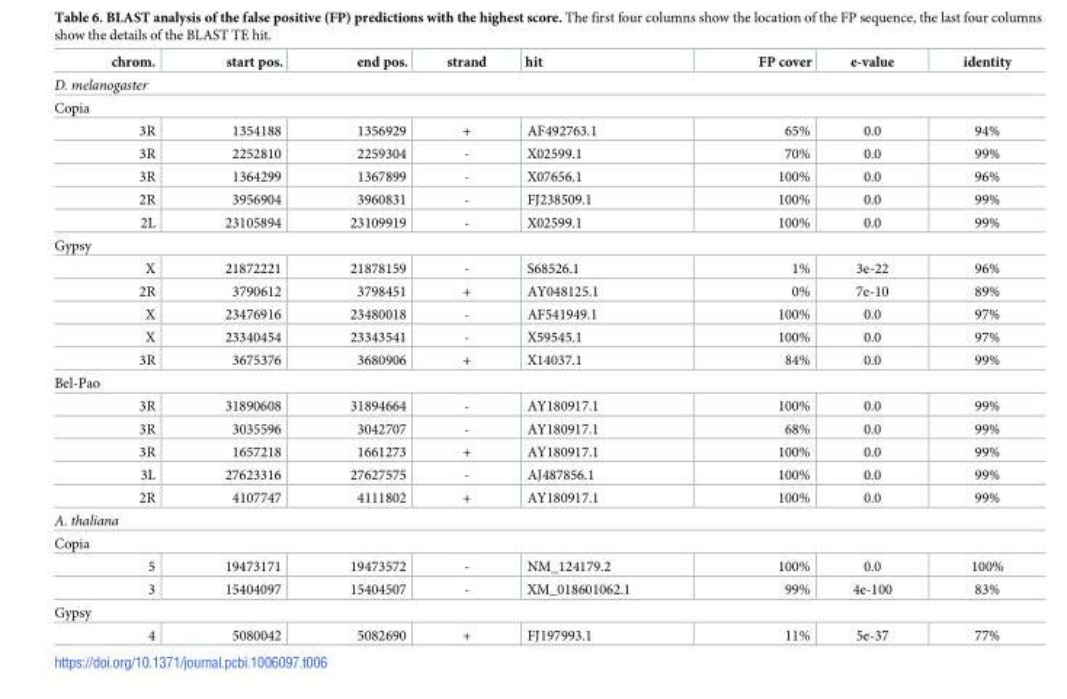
<table><thead><tr><td>chrom.</td><td>start pos.</td><td>end pos.</td><td>strand</td><td>hit</td><td>FP cover</td><td>e-value</td><td>identity</td></tr></thead><tbody><tr><td colspan="8">D. melanogaster</td></tr><tr><td colspan="8">Copia</td></tr><tr><td>3R</td><td>1354188</td><td>1356929</td><td>+</td><td>AF492763.1</td><td>65%</td><td>0.0</td><td>94%</td></tr><tr><td>3R</td><td>2252810</td><td>2259304</td><td>-</td><td>X02599.1</td><td>70%</td><td>0.0</td><td>99%</td></tr><tr><td>3R</td><td>1364299</td><td>1367899</td><td>-</td><td>X07656.1</td><td>100%</td><td>0.0</td><td>96%</td></tr><tr><td>2R</td><td>3956904</td><td>3960831</td><td>-</td><td>FJ238509.1</td><td>100%</td><td>0.0</td><td>99%</td></tr><tr><td>2L</td><td>23105894</td><td>23109919</td><td>-</td><td>X02599.1</td><td>100%</td><td>0.0</td><td>99%</td></tr><tr><td colspan="8">Gypsy</td></tr><tr><td>X</td><td>21872221</td><td>21878159</td><td>-</td><td>S68526.1</td><td>1%</td><td>3e-22</td><td>96%</td></tr><tr><td>2R</td><td>3790612</td><td>3798451</td><td>+</td><td>AY048125.1</td><td>0%</td><td>7e-10</td><td>89%</td></tr><tr><td>X</td><td>23476916</td><td>23480018</td><td>-</td><td>AF541949.1</td><td>100%</td><td>0.0</td><td>97%</td></tr><tr><td>X</td><td>23340454</td><td>23343541</td><td>-</td><td>X59545.1</td><td>100%</td><td>0.0</td><td>97%</td></tr><tr><td>3R</td><td>3675376</td><td>3680906</td><td>+</td><td>X14037.1</td><td>84%</td><td>0.0</td><td>99%</td></tr><tr><td colspan="8">Bel-Pao</td></tr><tr><td>3R</td><td>31890608</td><td>31894664</td><td>-</td><td>AY180917.1</td><td>100%</td><td>0.0</td><td>99%</td></tr><tr><td>3R</td><td>3035596</td><td>3042707</td><td>-</td><td>AY180917.1</td><td>68%</td><td>0.0</td><td>99%</td></tr><tr><td>3R</td><td>1657218</td><td>1661273</td><td>+</td><td>AY180917.1</td><td>100%</td><td>0.0</td><td>99%</td></tr><tr><td>3L</td><td>27623316</td><td>27627575</td><td>-</td><td>AJ487856.1</td><td>100%</td><td>0.0</td><td>99%</td></tr><tr><td>2R</td><td>4107747</td><td>4111802</td><td>+</td><td>AY180917.1</td><td>100%</td><td>0.0</td><td>99%</td></tr><tr><td colspan="8">A. thaliana</td></tr><tr><td colspan="8">Copia</td></tr><tr><td>5</td><td>19473171</td><td>19473572</td><td>-</td><td>NM_124179.2</td><td>100%</td><td>0.0</td><td>100%</td></tr><tr><td>3</td><td>15404097</td><td>15404507</td><td>-</td><td>XM_018601062.1</td><td>99%</td><td>4e-100</td><td>83%</td></tr><tr><td colspan="8">Gypsy</td></tr><tr><td>4</td><td>5080042</td><td>5082690</td><td>+</td><td>FJ197993.1</td><td>11%</td><td>5e-37</td><td>77%</td></tr></tbody></table>